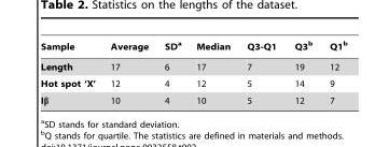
<table><thead><tr><td>Sample</td><td>Average</td><td>SD<sup>a</sup></td><td>Median</td><td>Q3-Q1</td><td>Q3<sup>b</sup></td><td>Q1<sup>b</sup></td></tr></thead><tbody><tr><td>Length</td><td>17</td><td>6</td><td>17</td><td>7</td><td>19</td><td>12</td></tr><tr><td>Hot spot ‘X’</td><td>12</td><td>4</td><td>12</td><td>5</td><td>14</td><td>9</td></tr><tr><td>Iβ</td><td>10</td><td>4</td><td>10</td><td>5</td><td>12</td><td>7</td></tr></tbody></table>